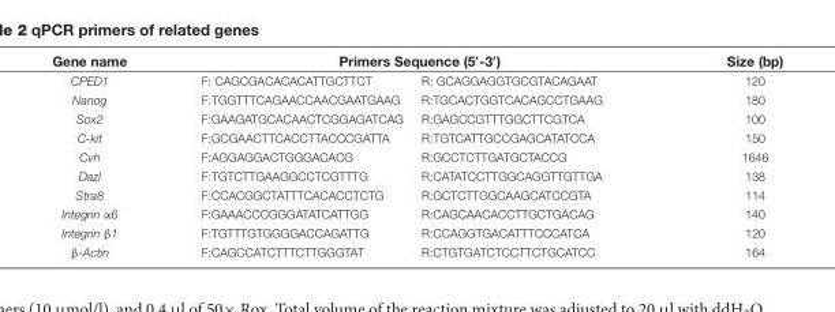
<table><thead><tr><td rowspan="2">Gene name CPED1</td><td colspan="2">Primers Sequence (5′-3′)</td><td rowspan="2">Size (bp) 120</td></tr><tr><td>F: CAGCGACACACATTGCTTCT</td><td>R: GCAGGAGGTGCGTACAGAAT</td></tr></thead><tbody><tr><td>Nanog</td><td>F:TGGTTTCAGAACCAACGAATGAAG</td><td>R:TGCACTGGTCACAGCCTGAAG</td><td>180</td></tr><tr><td>Sox2</td><td>F:GAAGATGCACAACTCGGAGATCAG</td><td>R:GAGCCGTTTGGCTTCGTCA</td><td>100</td></tr><tr><td>C-kit</td><td>F:GCGAACTTCACCTTACCCGATTA</td><td>R:TGTCATTGCCGAGCATATCCA</td><td>150</td></tr><tr><td>Cvh</td><td>F:AGGAGGACTGGGACACG</td><td>R:GCCTCTTGATGCTACCG</td><td>1646</td></tr><tr><td>Dazl</td><td>F:TGTCTTGAAGGCCTCGTTTG</td><td>R:CATATCCTTGGCAGGTTGTTGA</td><td>138</td></tr><tr><td>Stra8</td><td>F:CCACGGCTATTTCACACCTCTG</td><td>R:GCTCTTGGCAAGCATCCGTA</td><td>114</td></tr><tr><td>Integrin α6</td><td>F:GAAACCCGGGATATCATTGG</td><td>R:CAGCAACACCTTGCTGACAG</td><td>140</td></tr><tr><td>Integrin β1</td><td>F:TGTTTGTGGGGACCAGATTG</td><td>R:CCAGGTGACATTTCCCATCA</td><td>120</td></tr><tr><td>β-Actin</td><td>F:CAGCCATCTTTCTTGGGTAT</td><td>R:CTGTGATCTCCTTCTGCATCC</td><td>164</td></tr></tbody></table>